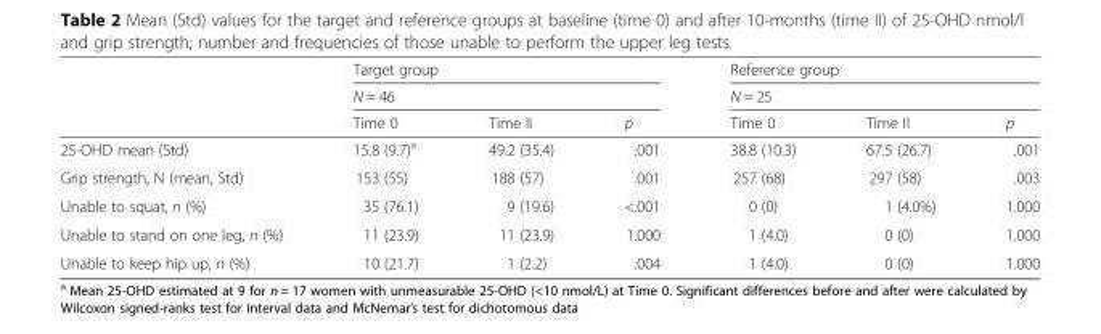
<table><thead><tr><td rowspan="3"></td><td rowspan="2" colspan="3">Target group N = 46</td><td rowspan="2" colspan="3">Reference group N = 25</td></tr><tr></tr><tr><td>Time 0</td><td>Time II</td><td>p</td><td>Time 0</td><td>Time II</td><td>p</td></tr></thead><tbody><tr><td>25-OHD mean (Std)</td><td>15.8 (9.7)<sup>a</sup></td><td>49.2 (35.4)</td><td>.001</td><td>38.8 (10.3)</td><td>67.5 (26.7)</td><td>.001</td></tr><tr><td>Grip strength, N (mean, Std)</td><td>153 (55)</td><td>188 (57)</td><td>.001</td><td>257 (68)</td><td>297 (58)</td><td>.003</td></tr><tr><td>Unable to squat, n (%)</td><td>35 (76.1)</td><td>9 (19.6)</td><td>&lt;.001</td><td>0 (0)</td><td>1 (4.0%)</td><td>1.000</td></tr><tr><td>Unable to stand on one leg, n (%)</td><td>11 (23.9)</td><td>11 (23.9)</td><td>1.000</td><td>1 (4.0)</td><td>0 (0)</td><td>1.000</td></tr><tr><td>Unable to keep hip up, n (%)</td><td>10 (21.7)</td><td>1 (2.2)</td><td>.004</td><td>1 (4.0)</td><td>0 (0)</td><td>1.000</td></tr></tbody></table>